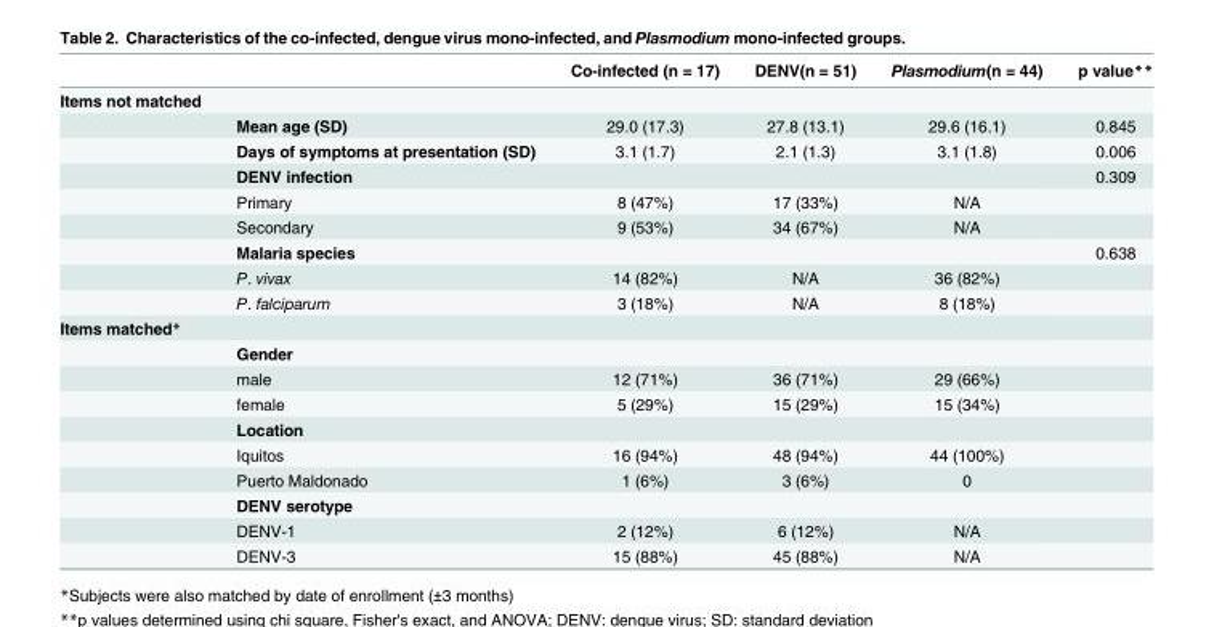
<table><thead><tr><td></td><td></td><td>Co-infected (n = 17)</td><td>DENV(n = 51)</td><td>Plasmodium(n = 44)</td><td>p value**</td></tr></thead><tbody><tr><td colspan="6">Items not matched</td></tr><tr><td></td><td>Mean age (SD)</td><td>29.0 (17.3)</td><td>27.8 (13.1)</td><td>29.6 (16.1)</td><td>0.845</td></tr><tr><td></td><td>Days of symptoms at presentation (SD)</td><td>3.1 (1.7)</td><td>2.1 (1.3)</td><td>3.1 (1.8)</td><td>0.006</td></tr><tr><td></td><td>DENV infection</td><td></td><td></td><td></td><td>0.309</td></tr><tr><td></td><td>Primary</td><td>8 (47%)</td><td>17 (33%)</td><td>N/A</td><td></td></tr><tr><td></td><td>Secondary</td><td>9 (53%)</td><td>34 (67%)</td><td>N/A</td><td></td></tr><tr><td></td><td>Malaria species</td><td></td><td></td><td></td><td>0.638</td></tr><tr><td></td><td>P. vivax</td><td>14 (82%)</td><td>N/A</td><td>36 (82%)</td><td></td></tr><tr><td></td><td>P. falciparum</td><td>3 (18%)</td><td>N/A</td><td>8 (18%)</td><td></td></tr><tr><td colspan="6">Items matched*</td></tr><tr><td></td><td>Gender</td><td></td><td></td><td></td><td></td></tr><tr><td></td><td>male</td><td>12 (71%)</td><td>36 (71%)</td><td>29 (66%)</td><td></td></tr><tr><td></td><td>female</td><td>5 (29%)</td><td>15 (29%)</td><td>15 (34%)</td><td></td></tr><tr><td></td><td>Location</td><td></td><td></td><td></td><td></td></tr><tr><td></td><td>Iquitos</td><td>16 (94%)</td><td>48 (94%)</td><td>44 (100%)</td><td></td></tr><tr><td></td><td>Puerto Maldonado</td><td>1 (6%)</td><td>3 (6%)</td><td>0</td><td></td></tr><tr><td></td><td>DENV serotype</td><td></td><td></td><td></td><td></td></tr><tr><td></td><td>DENV-1</td><td>2 (12%)</td><td>6 (12%)</td><td>N/A</td><td></td></tr><tr><td></td><td>DENV-3</td><td>15 (88%)</td><td>45 (88%)</td><td>N/A</td><td></td></tr></tbody></table>